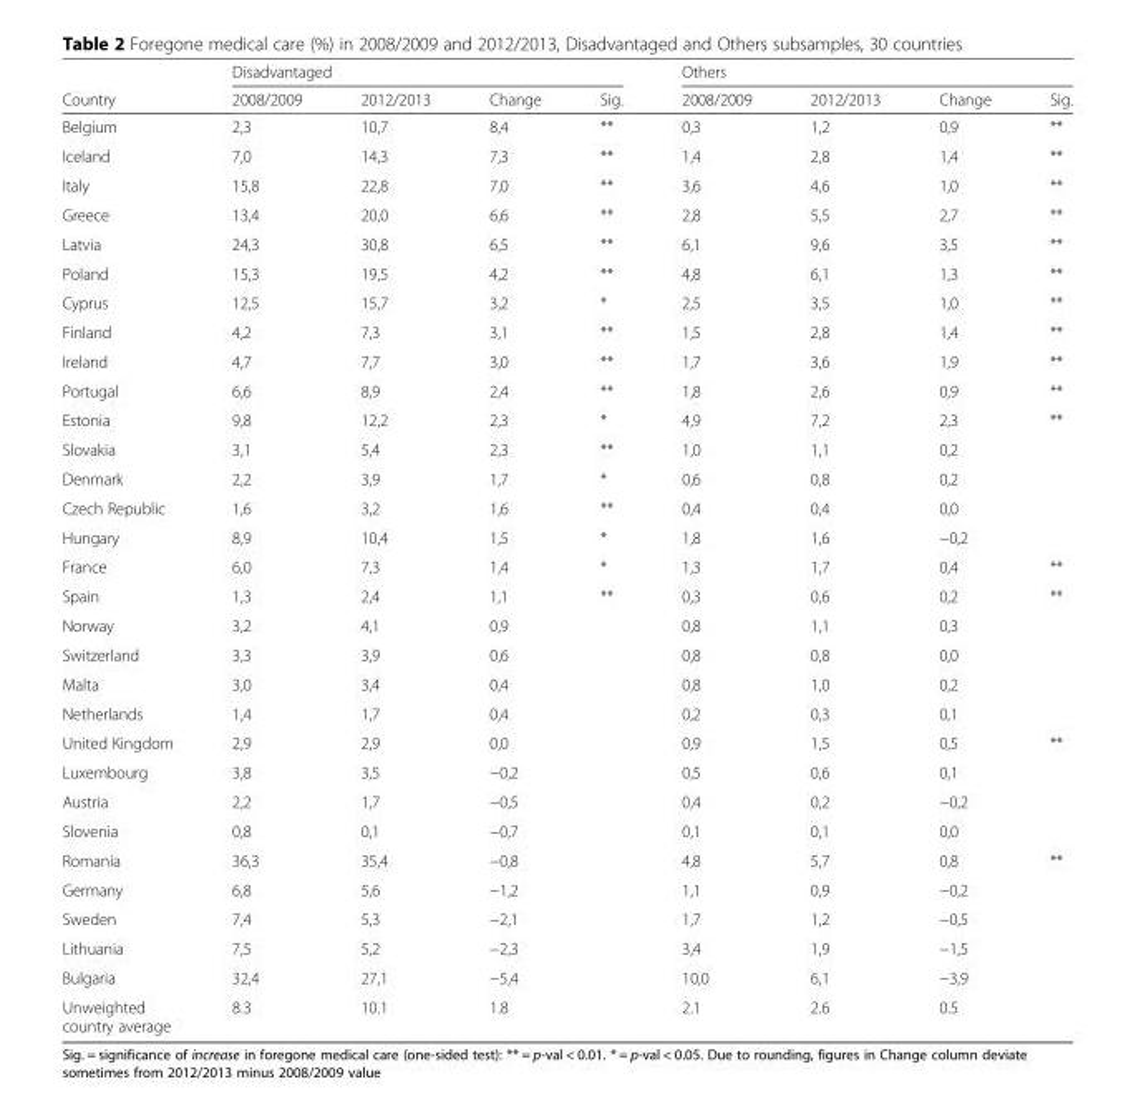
<table><thead><tr><td rowspan="2">Country</td><td colspan="4">Disadvantaged</td><td colspan="4">Others</td></tr><tr><td>2008/2009</td><td>2012/2013</td><td>Change</td><td>Sig.</td><td>2008/2009</td><td>2012/2013</td><td>Change</td><td>Sig.</td></tr></thead><tbody><tr><td>Belgium</td><td>2,3</td><td>10,7</td><td>8,4</td><td>**</td><td>0,3</td><td>1,2</td><td>0,9</td><td>**</td></tr><tr><td>Iceland</td><td>7,0</td><td>14,3</td><td>7,3</td><td>**</td><td>1,4</td><td>2,8</td><td>1,4</td><td>**</td></tr><tr><td>Italy</td><td>15,8</td><td>22,8</td><td>7,0</td><td>**</td><td>3,6</td><td>4,6</td><td>1,0</td><td>**</td></tr><tr><td>Greece</td><td>13,4</td><td>20,0</td><td>6,6</td><td>**</td><td>2,8</td><td>5,5</td><td>2,7</td><td>**</td></tr><tr><td>Latvia</td><td>24,3</td><td>30,8</td><td>6,5</td><td>**</td><td>6,1</td><td>9,6</td><td>3,5</td><td>**</td></tr><tr><td>Poland</td><td>15,3</td><td>19,5</td><td>4,2</td><td>**</td><td>4,8</td><td>6,1</td><td>1,3</td><td>**</td></tr><tr><td>Cyprus</td><td>12,5</td><td>15,7</td><td>3,2</td><td>*</td><td>2,5</td><td>3,5</td><td>1,0</td><td>**</td></tr><tr><td>Finland</td><td>4,2</td><td>7,3</td><td>3,1</td><td>**</td><td>1,5</td><td>2,8</td><td>1,4</td><td>**</td></tr><tr><td>Ireland</td><td>4,7</td><td>7,7</td><td>3,0</td><td>**</td><td>1,7</td><td>3,6</td><td>1,9</td><td>**</td></tr><tr><td>Portugal</td><td>6,6</td><td>8,9</td><td>2,4</td><td>**</td><td>1,8</td><td>2,6</td><td>0,9</td><td>**</td></tr><tr><td>Estonia</td><td>9,8</td><td>12,2</td><td>2,3</td><td>*</td><td>4,9</td><td>7,2</td><td>2,3</td><td>**</td></tr><tr><td>Slovakia</td><td>3,1</td><td>5,4</td><td>2,3</td><td>**</td><td>1,0</td><td>1,1</td><td>0,2</td><td></td></tr><tr><td>Denmark</td><td>2,2</td><td>3,9</td><td>1,7</td><td>*</td><td>0,6</td><td>0,8</td><td>0,2</td><td></td></tr><tr><td>Czech Republic</td><td>1,6</td><td>3,2</td><td>1,6</td><td>**</td><td>0,4</td><td>0,4</td><td>0,0</td><td></td></tr><tr><td>Hungary</td><td>8,9</td><td>10,4</td><td>1,5</td><td>*</td><td>1,8</td><td>1,6</td><td>−0,2</td><td></td></tr><tr><td>France</td><td>6,0</td><td>7,3</td><td>1,4</td><td>*</td><td>1,3</td><td>1,7</td><td>0,4</td><td>**</td></tr><tr><td>Spain</td><td>1,3</td><td>2,4</td><td>1,1</td><td>**</td><td>0,3</td><td>0,6</td><td>0,2</td><td>**</td></tr><tr><td>Norway</td><td>3,2</td><td>4,1</td><td>0,9</td><td></td><td>0,8</td><td>1,1</td><td>0,3</td><td></td></tr><tr><td>Switzerland</td><td>3,3</td><td>3,9</td><td>0,6</td><td></td><td>0,8</td><td>0,8</td><td>0,0</td><td></td></tr><tr><td>Malta</td><td>3,0</td><td>3,4</td><td>0,4</td><td></td><td>0,8</td><td>1,0</td><td>0,2</td><td></td></tr><tr><td>Netherlands</td><td>1,4</td><td>1,7</td><td>0,4</td><td></td><td>0,2</td><td>0,3</td><td>0,1</td><td></td></tr><tr><td>United Kingdom</td><td>2,9</td><td>2,9</td><td>0,0</td><td></td><td>0,9</td><td>1,5</td><td>0,5</td><td>**</td></tr><tr><td>Luxembourg</td><td>3,8</td><td>3,5</td><td>−0,2</td><td></td><td>0,5</td><td>0,6</td><td>0,1</td><td></td></tr><tr><td>Austria</td><td>2,2</td><td>1,7</td><td>−0,5</td><td></td><td>0,4</td><td>0,2</td><td>−0,2</td><td></td></tr><tr><td>Slovenia</td><td>0,8</td><td>0,1</td><td>−0,7</td><td></td><td>0,1</td><td>0,1</td><td>0,0</td><td></td></tr><tr><td>Romania</td><td>36,3</td><td>35,4</td><td>−0,8</td><td></td><td>4,8</td><td>5,7</td><td>0,8</td><td>**</td></tr><tr><td>Germany</td><td>6,8</td><td>5,6</td><td>−1,2</td><td></td><td>1,1</td><td>0,9</td><td>−0,2</td><td></td></tr><tr><td>Sweden</td><td>7,4</td><td>5,3</td><td>−2,1</td><td></td><td>1,7</td><td>1,2</td><td>−0,5</td><td></td></tr><tr><td>Lithuania</td><td>7,5</td><td>5,2</td><td>−2,3</td><td></td><td>3,4</td><td>1,9</td><td>−1,5</td><td></td></tr><tr><td>Bulgaria</td><td>32,4</td><td>27,1</td><td>−5,4</td><td></td><td>10,0</td><td>6,1</td><td>−3,9</td><td></td></tr><tr><td>Unweighted country average</td><td>8.3</td><td>10.1</td><td>1.8</td><td></td><td>2.1</td><td>2.6</td><td>0.5</td><td></td></tr></tbody></table>